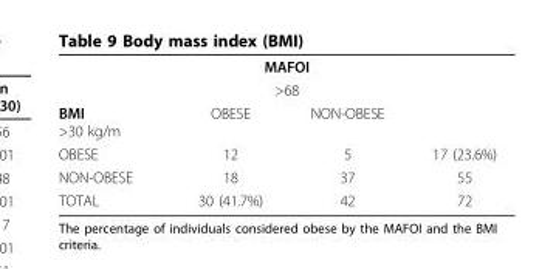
<table><tbody><tr><td colspan="4">MAFOI</td></tr><tr><td colspan="4">&gt;68</td></tr><tr><td>BMI &gt;30 kg/m</td><td>OBESE</td><td>NON-OBESE</td><td></td></tr><tr><td>OBESE</td><td>12</td><td>5</td><td>17 (23.6%)</td></tr><tr><td>NON-OBESE</td><td>18</td><td>37</td><td>55</td></tr><tr><td>TOTAL</td><td>30 (41.7%)</td><td>42</td><td>72</td></tr></tbody></table>